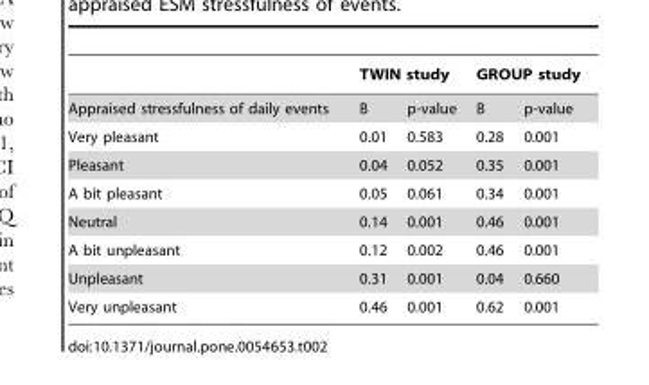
<table><thead><tr><td rowspan="2">Appraised stressfulness of daily events</td><td colspan="2">TWIN study</td><td colspan="2">GROUP study</td></tr><tr><td>B</td><td>p-value</td><td>B</td><td>p-value</td></tr></thead><tbody><tr><td>Very pleasant</td><td>0.01</td><td>0.583</td><td>0.28</td><td>0.001</td></tr><tr><td>Pleasant</td><td>0.04</td><td>0.052</td><td>0.35</td><td>0.001</td></tr><tr><td>A bit pleasant</td><td>0.05</td><td>0.061</td><td>0.34</td><td>0.001</td></tr><tr><td>Neutral</td><td>0.14</td><td>0.001</td><td>0.46</td><td>0.001</td></tr><tr><td>A bit unpleasant</td><td>0.12</td><td>0.002</td><td>0.46</td><td>0.001</td></tr><tr><td>Unpleasant</td><td>0.31</td><td>0.001</td><td>0.04</td><td>0.660</td></tr><tr><td>Very unpleasant</td><td>0.46</td><td>0.001</td><td>0.62</td><td>0.001</td></tr></tbody></table>